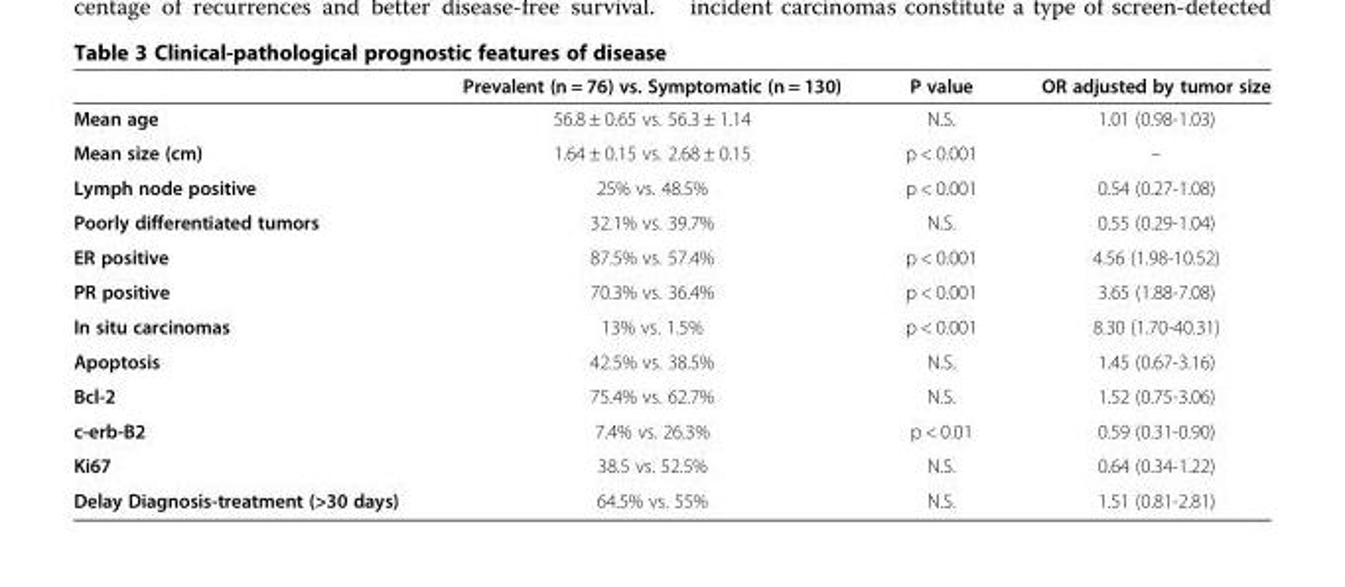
<table><thead><tr><td></td><td>Prevalent (n = 76) vs. Symptomatic (n = 130)</td><td>P value</td><td>OR adjusted by tumor size</td></tr></thead><tbody><tr><td>Mean age</td><td>56.8 ± 0.65 vs. 56.3 ± 1.14</td><td>N.S.</td><td>1.01 (0.98-1.03)</td></tr><tr><td>Mean size (cm)</td><td>1.64 ± 0.15 vs. 2.68 ± 0.15</td><td>p &lt; 0.001</td><td>–</td></tr><tr><td>Lymph node positive</td><td>25% vs. 48.5%</td><td>p &lt; 0.001</td><td>0.54 (0.27-1.08)</td></tr><tr><td>Poorly differentiated tumors</td><td>32.1% vs. 39.7%</td><td>N.S.</td><td>0.55 (0.29-1.04)</td></tr><tr><td>ER positive</td><td>87.5% vs. 57.4%</td><td>p &lt; 0.001</td><td>4.56 (1.98-10.52)</td></tr><tr><td>PR positive</td><td>70.3% vs. 36.4%</td><td>p &lt; 0.001</td><td>3.65 (1.88-7.08)</td></tr><tr><td>In situ carcinomas</td><td>13% vs. 1.5%</td><td>p &lt; 0.001</td><td>8.30 (1.70-40.31)</td></tr><tr><td>Apoptosis</td><td>42.5% vs. 38.5%</td><td>N.S.</td><td>1.45 (0.67-3.16)</td></tr><tr><td>Bcl-2</td><td>75.4% vs. 62.7%</td><td>N.S.</td><td>1.52 (0.75-3.06)</td></tr><tr><td>c-erb-B2</td><td>7.4% vs. 26.3%</td><td>p &lt; 0.01</td><td>0.59 (0.31-0.90)</td></tr><tr><td>Ki67</td><td>38.5 vs. 52.5%</td><td>N.S.</td><td>0.64 (0.34-1.22)</td></tr><tr><td>Delay Diagnosis-treatment (&gt;30 days)</td><td>64.5% vs. 55%</td><td>N.S.</td><td>1.51 (0.81-2.81)</td></tr></tbody></table>